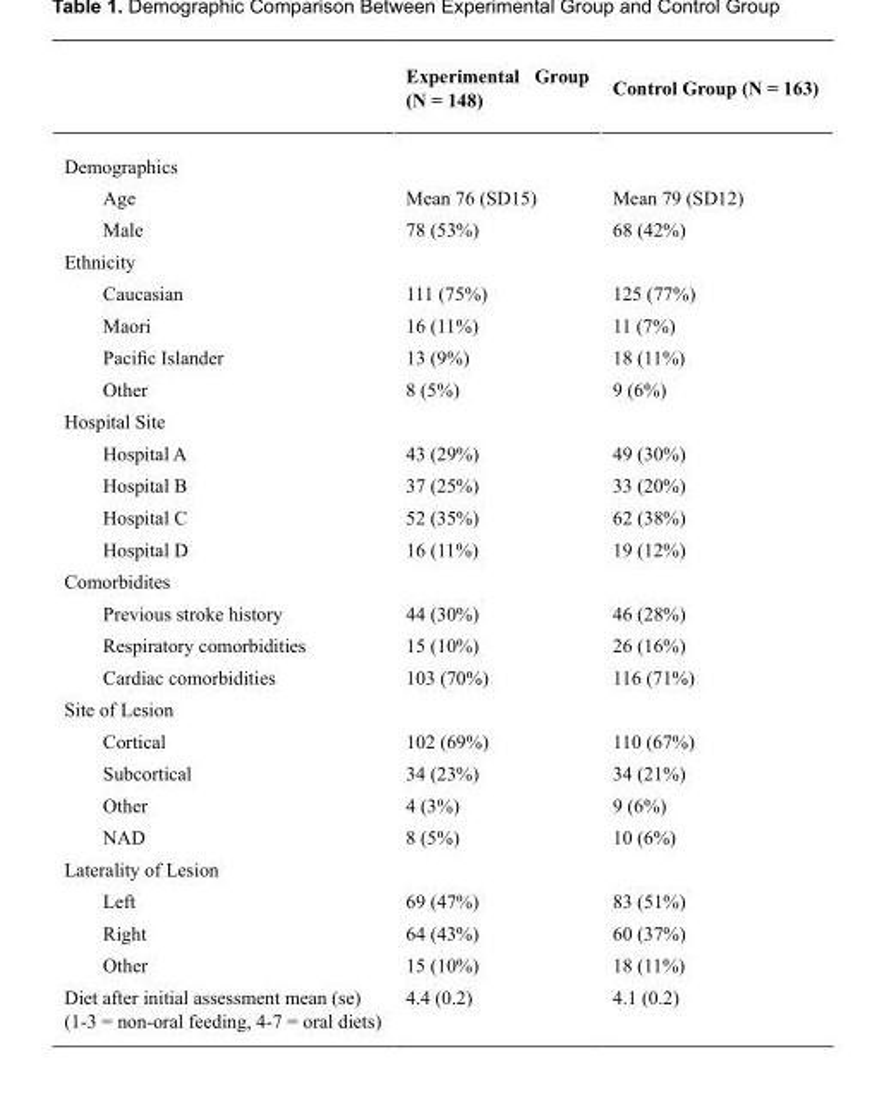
<table><thead><tr><td></td><td>Experimental Group (N = 148)</td><td>Control Group (N = 163)</td></tr></thead><tbody><tr><td colspan="3">Demographics</td></tr><tr><td>Age</td><td>Mean 76 (SD15)</td><td>Mean 79 (SD12)</td></tr><tr><td>Male</td><td>78 (53%)</td><td>68 (42%)</td></tr><tr><td colspan="3">Ethnicity</td></tr><tr><td>Caucasian</td><td>111 (75%)</td><td>125 (77%)</td></tr><tr><td>Maori</td><td>16 (11%)</td><td>11 (7%)</td></tr><tr><td>Pacific Islander</td><td>13 (9%)</td><td>18 (11%)</td></tr><tr><td>Other</td><td>8 (5%)</td><td>9 (6%)</td></tr><tr><td colspan="3">Hospital Site</td></tr><tr><td>Hospital A</td><td>43 (29%)</td><td>49 (30%)</td></tr><tr><td>Hospital B</td><td>37 (25%)</td><td>33 (20%)</td></tr><tr><td>Hospital C</td><td>52 (35%)</td><td>62 (38%)</td></tr><tr><td>Hospital D</td><td>16 (11%)</td><td>19 (12%)</td></tr><tr><td colspan="3">Comorbidites</td></tr><tr><td>Previous stroke history</td><td>44 (30%)</td><td>46 (28%)</td></tr><tr><td>Respiratory comorbidities</td><td>15 (10%)</td><td>26 (16%)</td></tr><tr><td>Cardiac comorbidities</td><td>103 (70%)</td><td>116 (71%)</td></tr><tr><td colspan="3">Site of Lesion</td></tr><tr><td>Cortical</td><td>102 (69%)</td><td>110 (67%)</td></tr><tr><td>Subcortical</td><td>34 (23%)</td><td>34 (21%)</td></tr><tr><td>Other</td><td>4 (3%)</td><td>9 (6%)</td></tr><tr><td>NAD</td><td>8 (5%)</td><td>10 (6%)</td></tr><tr><td colspan="3">Laterality of Lesion</td></tr><tr><td>Left</td><td>69 (47%)</td><td>83 (51%)</td></tr><tr><td>Right</td><td>64 (43%)</td><td>60 (37%)</td></tr><tr><td>Other</td><td>15 (10%)</td><td>18 (11%)</td></tr><tr><td>Diet after initial assessment mean (se) (1-3 = non-oral feeding, 4-7 = oral diets)</td><td>4.4 (0.2)</td><td>4.1 (0.2)</td></tr></tbody></table>